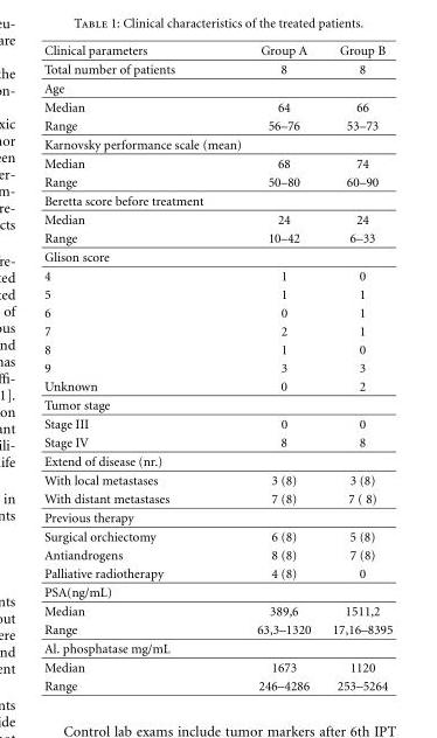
<table><thead><tr><td>Clinical parameters</td><td>Group A</td><td>Group B</td></tr></thead><tbody><tr><td>Total number of patients</td><td>8</td><td>8</td></tr><tr><td colspan="3">Age</td></tr><tr><td>Median</td><td>64</td><td>66</td></tr><tr><td>Range</td><td>56–76</td><td>53–73</td></tr><tr><td colspan="3">Karnovsky performance scale (mean)</td></tr><tr><td>Median</td><td>68</td><td>74</td></tr><tr><td>Range</td><td>50–80</td><td>60–90</td></tr><tr><td colspan="3">Beretta score before treatment</td></tr><tr><td>Median</td><td>24</td><td>24</td></tr><tr><td>Range</td><td>10–42</td><td>6–33</td></tr><tr><td colspan="3">Glison score</td></tr><tr><td>4</td><td>1</td><td>0</td></tr><tr><td>5</td><td>1</td><td>1</td></tr><tr><td>6</td><td>0</td><td>1</td></tr><tr><td>7</td><td>2</td><td>1</td></tr><tr><td>8</td><td>1</td><td>0</td></tr><tr><td>9</td><td>3</td><td>3</td></tr><tr><td>Unknown</td><td>0</td><td>2</td></tr><tr><td colspan="3">Tumor stage</td></tr><tr><td>Stage III</td><td>0</td><td>0</td></tr><tr><td>Stage IV</td><td>8</td><td>8</td></tr><tr><td colspan="3">Extend of disease (nr.)</td></tr><tr><td>With local metastases</td><td>3 (8)</td><td>3 (8)</td></tr><tr><td>With distant metastases</td><td>7 (8)</td><td>7 ( 8)</td></tr><tr><td colspan="3">Previous therapy</td></tr><tr><td>Surgical orchiectomy</td><td>6 (8)</td><td>5 (8)</td></tr><tr><td>Antiandrogens</td><td>8 (8)</td><td>7 (8)</td></tr><tr><td>Palliative radiotherapy</td><td>4 (8)</td><td>0</td></tr><tr><td colspan="3">PSA(ng/mL)</td></tr><tr><td>Median</td><td>389,6</td><td>1511,2</td></tr><tr><td>Range</td><td>63,3–1320</td><td>17,16–8395</td></tr><tr><td colspan="3">Al. phosphatase mg/mL</td></tr><tr><td>Median</td><td>1673</td><td>1120</td></tr><tr><td>Range</td><td>246–4286</td><td>253–5264</td></tr></tbody></table>